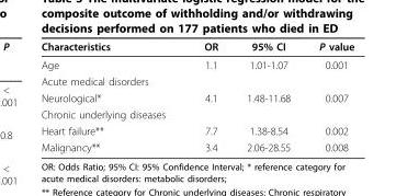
<table><thead><tr><td>Characteristics</td><td>OR</td><td>95% CI</td><td>P value</td></tr></thead><tbody><tr><td>Age</td><td>1.1</td><td>1.01-1.07</td><td>0.001</td></tr><tr><td colspan="4">Acute medical disorders</td></tr><tr><td>Neurological*</td><td>4.1</td><td>1.48-11.68</td><td>0.007</td></tr><tr><td colspan="4">Chronic underlying diseases</td></tr><tr><td>Heart failure**</td><td>7.7</td><td>1.38-8.54</td><td>0.002</td></tr><tr><td>Malignancy**</td><td>3.4</td><td>2.06-28.55</td><td>0.008</td></tr></tbody></table>